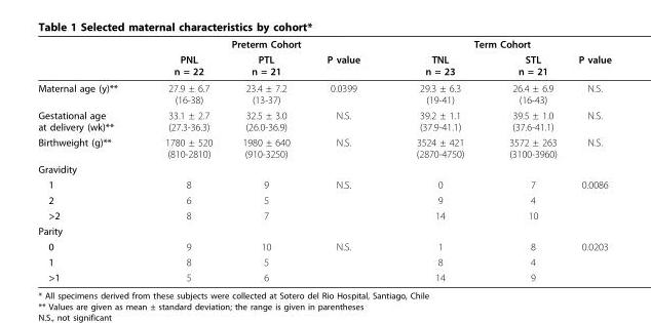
<table><thead><tr><td rowspan="2"></td><td colspan="3">Preterm Cohort</td><td colspan="3">Term Cohort</td></tr><tr><td>PNL n = 22</td><td>PTL n = 21</td><td>P value</td><td>TNL n = 23</td><td>STL n = 21</td><td>P value</td></tr></thead><tbody><tr><td>Maternal age (y)**</td><td>27.9 ± 6.7 (16-38)</td><td>23.4 ± 7.2 (13-37)</td><td>0.0399</td><td>29.3 ± 6.3 (19-41)</td><td>26.4 ± 6.9 (16-43)</td><td>N.S.</td></tr><tr><td>Gestational age at delivery (wk)**</td><td>33.1 ± 2.7 (27.3-36.3)</td><td>32.5 ± 3.0 (26.0-36.9)</td><td>N.S.</td><td>39.2 ± 1.1 (37.9-41.1)</td><td>39.5 ± 1.0 (37.6-41.1)</td><td>N.S.</td></tr><tr><td>Birthweight (g)**</td><td>1780 ± 520 (810-2810)</td><td>1980 ± 640 (910-3250)</td><td>N.S.</td><td>3524 ± 421 (2870-4750)</td><td>3572 ± 263 (3100-3960)</td><td>N.S.</td></tr><tr><td colspan="7">Gravidity</td></tr><tr><td>1</td><td>8</td><td>9</td><td>N.S.</td><td>0</td><td>7</td><td>0.0086</td></tr><tr><td>2</td><td>6</td><td>5</td><td></td><td>9</td><td>4</td><td></td></tr><tr><td>&gt;2</td><td>8</td><td>7</td><td></td><td>14</td><td>10</td><td></td></tr><tr><td colspan="7">Parity</td></tr><tr><td>0</td><td>9</td><td>10</td><td>N.S.</td><td>1</td><td>8</td><td>0.0203</td></tr><tr><td>1</td><td>8</td><td>5</td><td></td><td>8</td><td>4</td><td></td></tr><tr><td>&gt;1</td><td>5</td><td>6</td><td></td><td>14</td><td>9</td><td></td></tr></tbody></table>